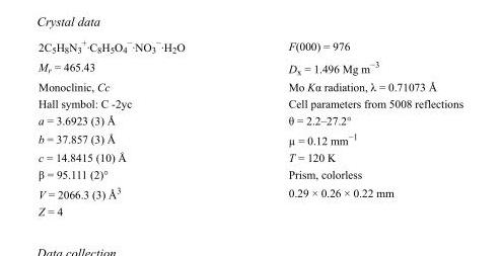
<table><tbody><tr><td>2C<sub>5</sub>H<sub>8</sub>N<sub>3</sub> <sup>+</sup>·C<sub>8</sub>H<sub>5</sub>O<sub>4</sub> <sup>−</sup>·NO<sub>3</sub> <sup>−</sup>·H<sub>2</sub>O</td><td>F(000) = 976</td></tr><tr><td>M<sub>r</sub> = 465.43</td><td>D<sub>x</sub> = 1.496 Mg m<sup>−3</sup></td></tr><tr><td>Monoclinic, Cc</td><td>Mo Kα radiation, λ = 0.71073 Å</td></tr><tr><td>Hall symbol: C -2yc</td><td>Cell parameters from 5008 reflections</td></tr><tr><td>a = 3.6923 (3) Å</td><td>θ = 2.2–27.2°</td></tr><tr><td>b = 37.857 (3) Å</td><td>µ = 0.12 mm<sup>−1</sup></td></tr><tr><td>c = 14.8415 (10) Å</td><td>T = 120 K</td></tr><tr><td>β = 95.111 (2)°</td><td>Prism, colorless</td></tr><tr><td>V = 2066.3 (3) Å<sup>3</sup></td><td>0.29 × 0.26 × 0.22 mm</td></tr><tr><td>Z = 4</td><td></td></tr></tbody></table>